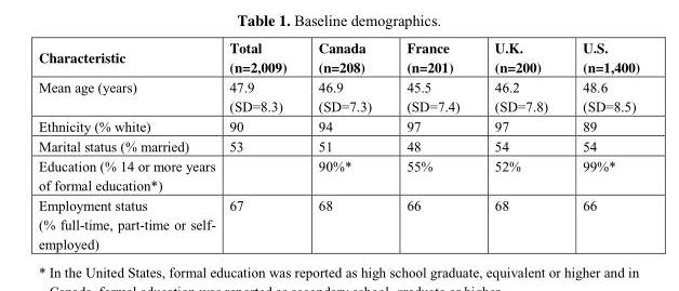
<table><thead><tr><td>Characteristic</td><td>Total (n=2,009)</td><td>Canada (n=208)</td><td>France (n=201)</td><td>U.K. (n=200)</td><td>U.S. (n=1,400)</td></tr></thead><tbody><tr><td>Mean age (years)</td><td>47.9 (SD=8.3)</td><td>46.9 (SD=7.3)</td><td>45.5 (SD=7.4)</td><td>46.2 (SD=7.8)</td><td>48.6 (SD=8.5)</td></tr><tr><td>Ethnicity (% white)</td><td>90</td><td>94</td><td>97</td><td>97</td><td>89</td></tr><tr><td>Marital status (% married)</td><td>53</td><td>51</td><td>48</td><td>54</td><td>54</td></tr><tr><td>Education (% 14 or more years of formal education*)</td><td></td><td>90%*</td><td>55%</td><td>52%</td><td>99%*</td></tr><tr><td>Employment status (% full-time, part-time or self- employed)</td><td>67</td><td>68</td><td>66</td><td>68</td><td>66</td></tr></tbody></table>